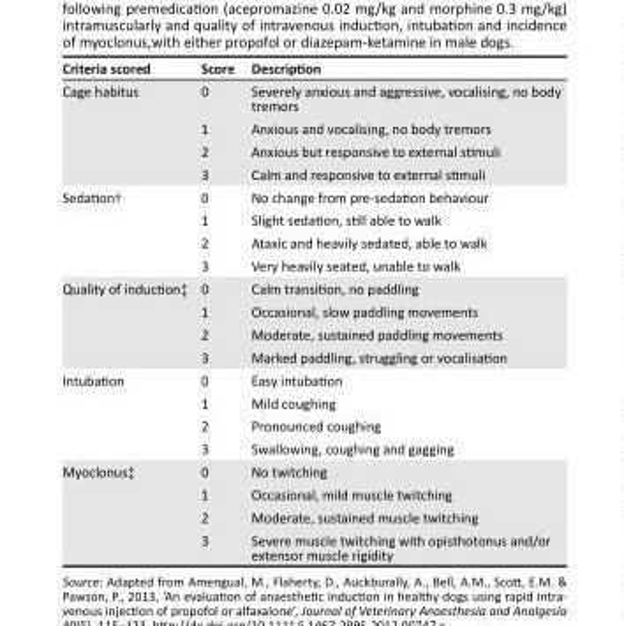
<table><thead><tr><td>Criteria scored</td><td>Score</td><td>Description</td></tr></thead><tbody><tr><td rowspan="4">Cage habitus</td><td>0</td><td>Severely anxious and aggressive, vocalising, no body tremors</td></tr><tr><td>1</td><td>Anxious and vocalising, no body tremors</td></tr><tr><td>2</td><td>Anxious but responsive to external stimuli</td></tr><tr><td>3</td><td>Calm and responsive to external stimuli</td></tr><tr><td rowspan="4">Sedation†</td><td>0</td><td>No change from pre-sedation behaviour</td></tr><tr><td>1</td><td>Slight sedation, still able to walk</td></tr><tr><td>2</td><td>Ataxic and heavily sedated, able to walk</td></tr><tr><td>3</td><td>Very heavily seated, unable to walk</td></tr><tr><td rowspan="4">Quality of induction‡</td><td>0</td><td>Calm transition, no paddling</td></tr><tr><td>1</td><td>Occasional, slow paddling movements</td></tr><tr><td>2</td><td>Moderate, sustained paddling movements</td></tr><tr><td>3</td><td>Marked paddling, struggling or vocalisation</td></tr><tr><td rowspan="4">Intubation</td><td>0</td><td>Easy intubation</td></tr><tr><td>1</td><td>Mild coughing</td></tr><tr><td>2</td><td>Pronounced coughing</td></tr><tr><td>3</td><td>Swallowing, coughing and gagging</td></tr><tr><td rowspan="4">Myoclonus‡</td><td>0</td><td>No twitching</td></tr><tr><td>1</td><td>Occasional, mild muscle twitching</td></tr><tr><td>2</td><td>Moderate, sustained muscle twitching</td></tr><tr><td>3</td><td>Severe muscle twitching with opisthotonus and/or extensor muscle rigidity</td></tr></tbody></table>